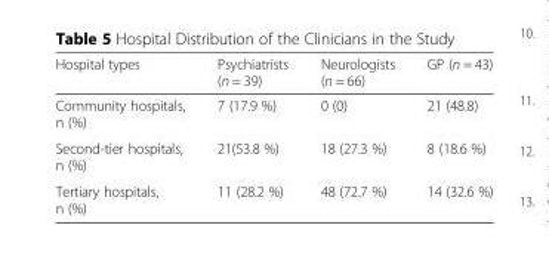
<table><thead><tr><td>Hospital types</td><td>Psychiatrists (n = 39)</td><td>Neurologists (n = 66)</td><td>GP (n = 43)</td></tr></thead><tbody><tr><td>Community hospitals, n (%)</td><td>7 (17.9 %)</td><td>0 (0)</td><td>21 (48.8)</td></tr><tr><td>Second-tier hospitals, n (%)</td><td>21(53.8 %)</td><td>18 (27.3 %)</td><td>8 (18.6 %)</td></tr><tr><td>Tertiary hospitals, n (%)</td><td>11 (28.2 %)</td><td>48 (72.7 %)</td><td>14 (32.6 %)</td></tr></tbody></table>